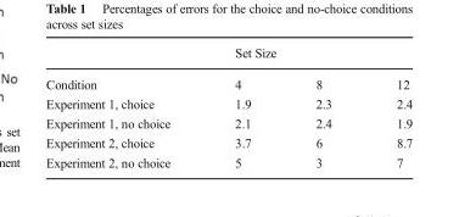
<table><thead><tr><td rowspan="2">Condition</td><td colspan="3">Set Size</td></tr><tr><td>4</td><td>8</td><td>12</td></tr></thead><tbody><tr><td>Experiment 1, choice</td><td>1.9</td><td>2.3</td><td>2.4</td></tr><tr><td>Experiment 1, no choice</td><td>2.1</td><td>2.4</td><td>1.9</td></tr><tr><td>Experiment 2, choice</td><td>3.7</td><td>6</td><td>8.7</td></tr><tr><td>Experiment 2, no choice</td><td>5</td><td>3</td><td>7</td></tr></tbody></table>